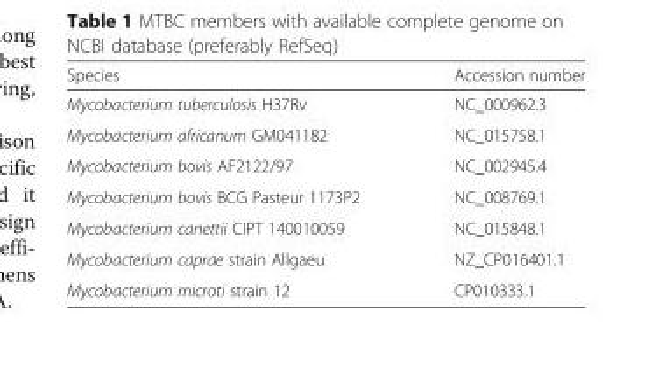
<table><thead><tr><td>Species</td><td>Accession number</td></tr></thead><tbody><tr><td>Mycobacterium tuberculosis H37Rv</td><td>NC_000962.3</td></tr><tr><td>Mycobacterium africanum GM041182</td><td>NC_015758.1</td></tr><tr><td>Mycobacterium bovis AF2122/97</td><td>NC_002945.4</td></tr><tr><td>Mycobacterium bovis BCG Pasteur 1173P2</td><td>NC_008769.1</td></tr><tr><td>Mycobacterium canettii CIPT 140010059</td><td>NC_015848.1</td></tr><tr><td>Mycobacterium caprae strain Allgaeu</td><td>NZ_CP016401.1</td></tr><tr><td>Mycobacterium microti strain 12</td><td>CP010333.1</td></tr></tbody></table>